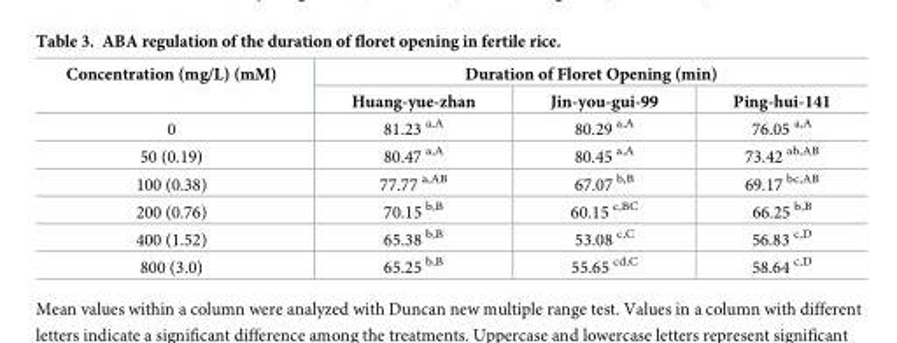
<table><thead><tr><td rowspan="2">Concentration (mg/L) (mM)</td><td colspan="3">Duration of Floret Opening (min)</td></tr><tr><td>Huang-yue-zhan</td><td>Jin-you-gui-99</td><td>Ping-hui-141</td></tr></thead><tbody><tr><td>0</td><td>81.23 <sup>a,A</sup></td><td>80.29 <sup>a,A</sup></td><td>76.05 <sup>a,A</sup></td></tr><tr><td>50 (0.19)</td><td>80.47 <sup>a,A</sup></td><td>80.45 <sup>a,A</sup></td><td>73.42 <sup>ab,AB</sup></td></tr><tr><td>100 (0.38)</td><td>77.77 <sup>a,AB</sup></td><td>67.07 <sup>b,B</sup></td><td>69.17 <sup>bc,AB</sup></td></tr><tr><td>200 (0.76)</td><td>70.15 <sup>b,B</sup></td><td>60.15 <sup>c,BC</sup></td><td>66.25 <sup>b,B</sup></td></tr><tr><td>400 (1.52)</td><td>65.38 <sup>b,B</sup></td><td>53.08 <sup>c,C</sup></td><td>56.83 <sup>c,D</sup></td></tr><tr><td>800 (3.0)</td><td>65.25 <sup>b,B</sup></td><td>55.65 <sup>cd,C</sup></td><td>58.64 <sup>c,D</sup></td></tr></tbody></table>